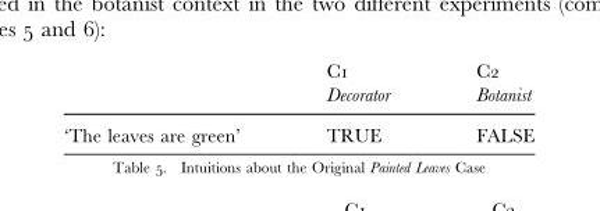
<table><thead><tr><td rowspan="2"></td><td rowspan="2">C1 Decorator</td><td rowspan="2">C2 Botanist</td></tr><tr></tr></thead><tbody><tr><td>‘The leaves are green’</td><td>TRUE</td><td>FALSE</td></tr></tbody></table>